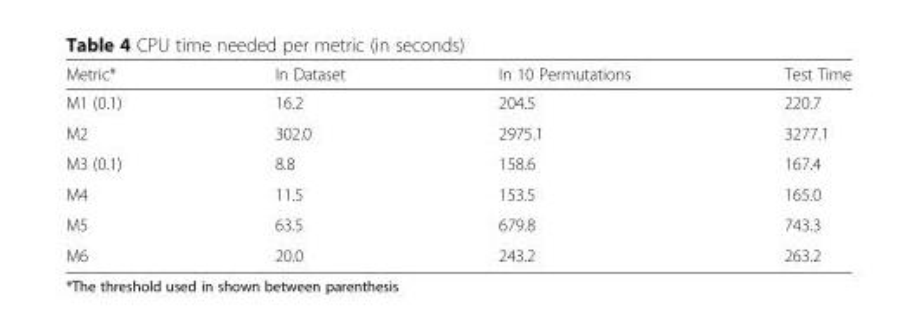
<table><thead><tr><td>Metric*</td><td>In Dataset</td><td>In 10 Permutations</td><td>Test Time</td></tr></thead><tbody><tr><td>M1 (0.1)</td><td>16.2</td><td>204.5</td><td>220.7</td></tr><tr><td>M2</td><td>302.0</td><td>2975.1</td><td>3277.1</td></tr><tr><td>M3 (0.1)</td><td>8.8</td><td>158.6</td><td>167.4</td></tr><tr><td>M4</td><td>11.5</td><td>153.5</td><td>165.0</td></tr><tr><td>M5</td><td>63.5</td><td>679.8</td><td>743.3</td></tr><tr><td>M6</td><td>20.0</td><td>243.2</td><td>263.2</td></tr></tbody></table>